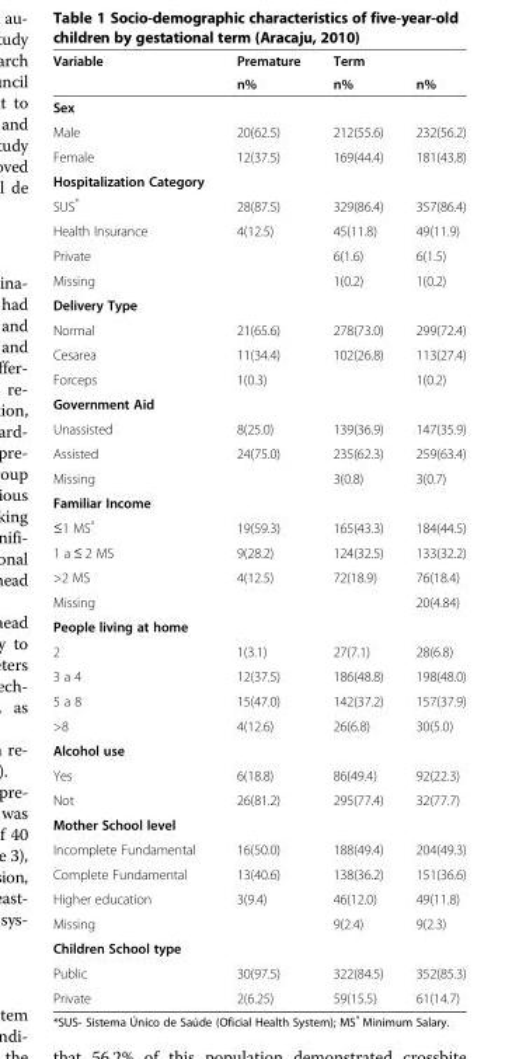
<table><thead><tr><td rowspan="2">Variable</td><td rowspan="2">Premature n%</td><td rowspan="2">Term n%</td><td rowspan="2">n%</td></tr><tr></tr></thead><tbody><tr><td colspan="4">Sex</td></tr><tr><td>Male</td><td>20(62.5)</td><td>212(55.6)</td><td>232(56.2)</td></tr><tr><td>Female</td><td>12(37.5)</td><td>169(44.4)</td><td>181(43.8)</td></tr><tr><td colspan="4">Hospitalization Category</td></tr><tr><td>SUS*</td><td>28(87.5)</td><td>329(86.4)</td><td>357(86.4)</td></tr><tr><td>Health Insurance</td><td>4(12.5)</td><td>45(11.8)</td><td>49(11.9)</td></tr><tr><td>Private</td><td></td><td>6(1.6)</td><td>6(1.5)</td></tr><tr><td>Missing</td><td></td><td>1(0.2)</td><td>1(0.2)</td></tr><tr><td colspan="4">Delivery Type</td></tr><tr><td>Normal</td><td>21(65.6)</td><td>278(73.0)</td><td>299(72.4)</td></tr><tr><td>Cesarea</td><td>11(34.4)</td><td>102(26.8)</td><td>113(27.4)</td></tr><tr><td>Forceps</td><td>1(0.3)</td><td></td><td>1(0.2)</td></tr><tr><td colspan="4">Government Aid</td></tr><tr><td>Unassisted</td><td>8(25.0)</td><td>139(36.9)</td><td>147(35.9)</td></tr><tr><td>Assisted</td><td>24(75.0)</td><td>235(62.3)</td><td>259(63.4)</td></tr><tr><td>Missing</td><td></td><td>3(0.8)</td><td>3(0.7)</td></tr><tr><td colspan="4">Familiar Income</td></tr><tr><td>≤1 MS<sup>ª</sup></td><td>19(59.3)</td><td>165(43.3)</td><td>184(44.5)</td></tr><tr><td>1 a ≤ 2 MS</td><td>9(28.2)</td><td>124(32.5)</td><td>133(32.2)</td></tr><tr><td>&gt;2 MS</td><td>4(12.5)</td><td>72(18.9)</td><td>76(18.4)</td></tr><tr><td>Missing</td><td></td><td></td><td>20(4.84)</td></tr><tr><td colspan="4">People living at home</td></tr><tr><td>2</td><td>1(3.1)</td><td>27(7.1)</td><td>28(6.8)</td></tr><tr><td>3 a 4</td><td>12(37.5)</td><td>186(48.8)</td><td>198(48.0)</td></tr><tr><td>5 a 8</td><td>15(47.0)</td><td>142(37.2)</td><td>157(37.9)</td></tr><tr><td>&gt;8</td><td>4(12.6)</td><td>26(6.8)</td><td>30(5.0)</td></tr><tr><td colspan="4">Alcohol use</td></tr><tr><td>Yes</td><td>6(18.8)</td><td>86(49.4)</td><td>92(22.3)</td></tr><tr><td>Not</td><td>26(81.2)</td><td>295(77.4)</td><td>32(77.7)</td></tr><tr><td colspan="4">Mother School level</td></tr><tr><td>Incomplete Fundamental</td><td>16(50.0)</td><td>188(49.4)</td><td>204(49.3)</td></tr><tr><td>Complete Fundamental</td><td>13(40.6)</td><td>138(36.2)</td><td>151(36.6)</td></tr><tr><td>Higher education</td><td>3(9.4)</td><td>46(12.0)</td><td>49(11.8)</td></tr><tr><td>Missing</td><td></td><td>9(2.4)</td><td>9(2.3)</td></tr><tr><td colspan="4">Children School type</td></tr><tr><td>Public</td><td>30(97.5)</td><td>322(84.5)</td><td>352(85.3)</td></tr><tr><td>Private</td><td>2(6.25)</td><td>59(15.5)</td><td>61(14.7)</td></tr></tbody></table>